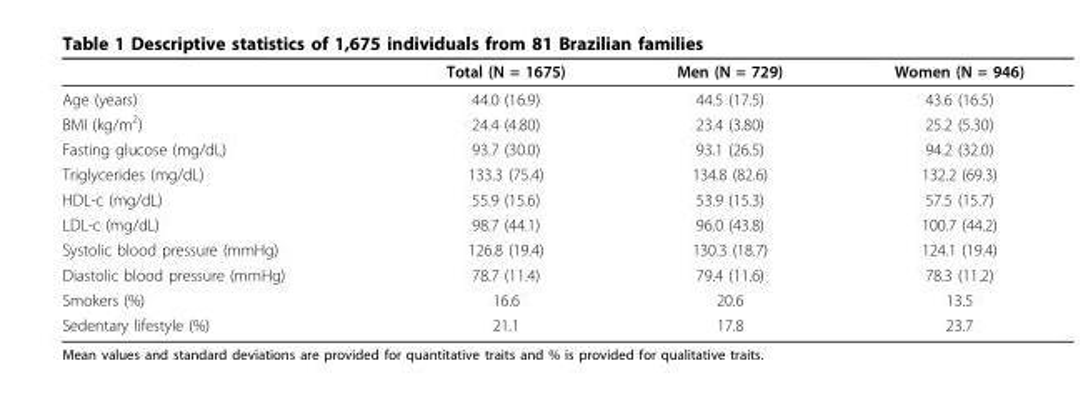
<table><thead><tr><td></td><td>Total (N = 1675)</td><td>Men (N = 729)</td><td>Women (N = 946)</td></tr></thead><tbody><tr><td>Age (years)</td><td>44.0 (16.9)</td><td>44.5 (17.5)</td><td>43.6 (16.5)</td></tr><tr><td>BMI (kg/m<sup>2</sup>)</td><td>24.4 (4.80)</td><td>23.4 (3.80)</td><td>25.2 (5.30)</td></tr><tr><td>Fasting glucose (mg/dL)</td><td>93.7 (30.0)</td><td>93.1 (26.5)</td><td>94.2 (32.0)</td></tr><tr><td>Triglycerides (mg/dL)</td><td>133.3 (75.4)</td><td>134.8 (82.6)</td><td>132.2 (69.3)</td></tr><tr><td>HDL-c (mg/dL)</td><td>55.9 (15.6)</td><td>53.9 (15.3)</td><td>57.5 (15.7)</td></tr><tr><td>LDL-c (mg/dL)</td><td>98.7 (44.1)</td><td>96.0 (43.8)</td><td>100.7 (44.2)</td></tr><tr><td>Systolic blood pressure (mmHg)</td><td>126.8 (19.4)</td><td>130.3 (18.7)</td><td>124.1 (19.4)</td></tr><tr><td>Diastolic blood pressure (mmHg)</td><td>78.7 (11.4)</td><td>79.4 (11.6)</td><td>78.3 (11.2)</td></tr><tr><td>Smokers (%)</td><td>16.6</td><td>20.6</td><td>13.5</td></tr><tr><td>Sedentary lifestyle (%)</td><td>21.1</td><td>17.8</td><td>23.7</td></tr></tbody></table>